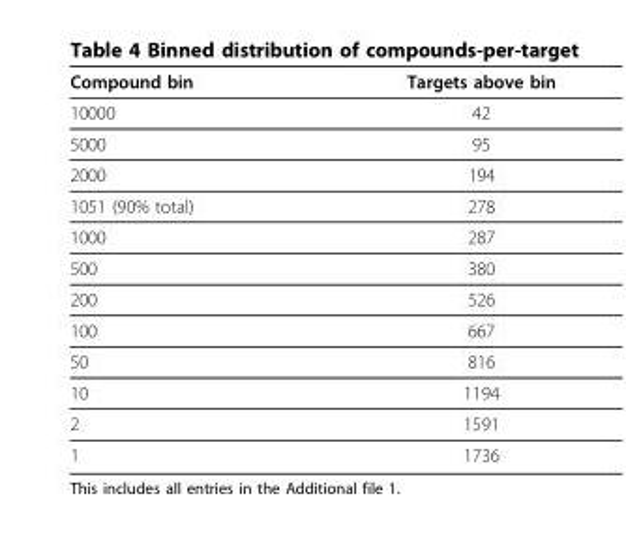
<table><thead><tr><td>Compound bin</td><td>Targets above bin</td></tr></thead><tbody><tr><td>10000</td><td>42</td></tr><tr><td>5000</td><td>95</td></tr><tr><td>2000</td><td>194</td></tr><tr><td>1051 (90% total)</td><td>278</td></tr><tr><td>1000</td><td>287</td></tr><tr><td>500</td><td>380</td></tr><tr><td>200</td><td>526</td></tr><tr><td>100</td><td>667</td></tr><tr><td>50</td><td>816</td></tr><tr><td>10</td><td>1194</td></tr><tr><td>2</td><td>1591</td></tr><tr><td>1</td><td>1736</td></tr></tbody></table>